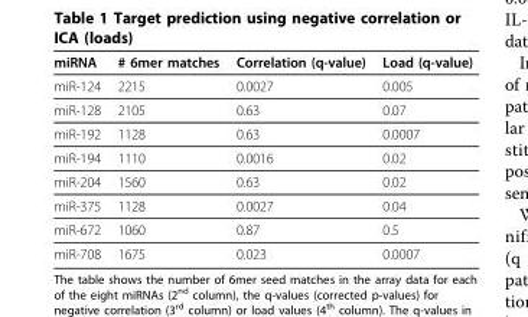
<table><thead><tr><td>miRNA</td><td># 6mer matches</td><td>Correlation (q-value)</td><td>Load (q-value)</td></tr></thead><tbody><tr><td>miR-124</td><td>2215</td><td>0.0027</td><td>0.005</td></tr><tr><td>miR-128</td><td>2105</td><td>0.63</td><td>0.07</td></tr><tr><td>miR-192</td><td>1128</td><td>0.63</td><td>0.0007</td></tr><tr><td>miR-194</td><td>1110</td><td>0.0016</td><td>0.02</td></tr><tr><td>miR-204</td><td>1560</td><td>0.63</td><td>0.02</td></tr><tr><td>miR-375</td><td>1128</td><td>0.0027</td><td>0.04</td></tr><tr><td>miR-672</td><td>1060</td><td>0.87</td><td>0.5</td></tr><tr><td>miR-708</td><td>1675</td><td>0.023</td><td>0.0007</td></tr></tbody></table>